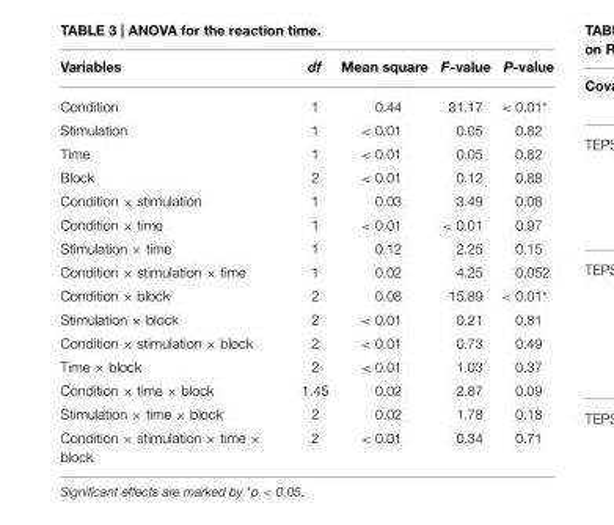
<table><thead><tr><td>Variables</td><td>df</td><td>Mean square</td><td>F-value</td><td>P-value</td></tr></thead><tbody><tr><td>Condition</td><td>1</td><td>0.44</td><td>31.17</td><td>&lt; 0.01*</td></tr><tr><td>Stimulation</td><td>1</td><td>&lt; 0.01</td><td>0.05</td><td>0.82</td></tr><tr><td>Time</td><td>1</td><td>&lt; 0.01</td><td>0.05</td><td>0.82</td></tr><tr><td>Block</td><td>2</td><td>&lt; 0.01</td><td>0.12</td><td>0.88</td></tr><tr><td>Condition × stimulation</td><td>1</td><td>0.03</td><td>3.49</td><td>0.08</td></tr><tr><td>Condition × time</td><td>1</td><td>&lt; 0.01</td><td>&lt; 0.01</td><td>0.97</td></tr><tr><td>Stimulation × time</td><td>1</td><td>0.12</td><td>2.25</td><td>0.15</td></tr><tr><td>Condition × stimulation × time</td><td>1</td><td>0.02</td><td>4.25</td><td>0.052</td></tr><tr><td>Condition × block</td><td>2</td><td>0.08</td><td>15.89</td><td>&lt; 0.01*</td></tr><tr><td>Stimulation × block</td><td>2</td><td>&lt; 0.01</td><td>0.21</td><td>0.81</td></tr><tr><td>Condition × stimulation × block</td><td>2</td><td>&lt; 0.01</td><td>0.73</td><td>0.49</td></tr><tr><td>Time × block</td><td>2</td><td>&lt; 0.01</td><td>1.03</td><td>0.37</td></tr><tr><td>Condition × time × block</td><td>1.45</td><td>0.02</td><td>2.87</td><td>0.09</td></tr><tr><td>Stimulation × time × block</td><td>2</td><td>0.02</td><td>1.78</td><td>0.18</td></tr><tr><td>Condition × stimulation × time × block</td><td>2</td><td>&lt; 0.01</td><td>0.34</td><td>0.71</td></tr></tbody></table>